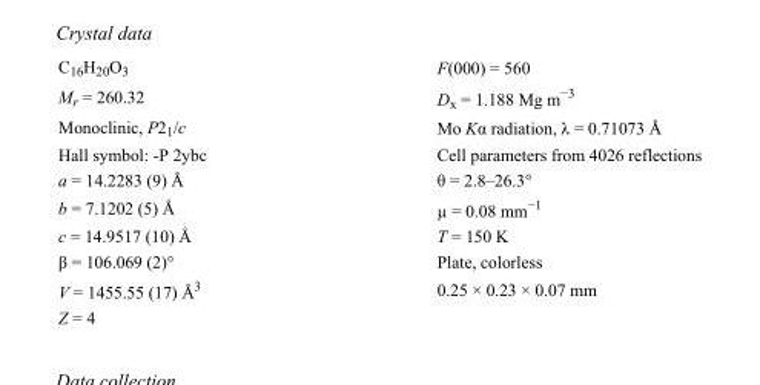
<table><tbody><tr><td>C<sub>16</sub>H<sub>20</sub>O<sub>3</sub></td><td>F(000) = 560</td></tr><tr><td>M<sub>r</sub> = 260.32</td><td>D<sub>x</sub> = 1.188 Mg m<sup>−3</sup></td></tr><tr><td>Monoclinic, P2<sub>1</sub>/c</td><td>Mo Kα radiation, λ = 0.71073 Å</td></tr><tr><td>Hall symbol: -P 2ybc</td><td>Cell parameters from 4026 reflections</td></tr><tr><td>a = 14.2283 (9) Å</td><td>θ = 2.8–26.3°</td></tr><tr><td>b = 7.1202 (5) Å</td><td>µ = 0.08 mm<sup>−1</sup></td></tr><tr><td>c = 14.9517 (10) Å</td><td>T = 150 K</td></tr><tr><td>β = 106.069 (2)°</td><td>Plate, colorless</td></tr><tr><td>V = 1455.55 (17) Å<sup>3</sup></td><td>0.25 × 0.23 × 0.07 mm</td></tr><tr><td>Z = 4</td><td></td></tr></tbody></table>